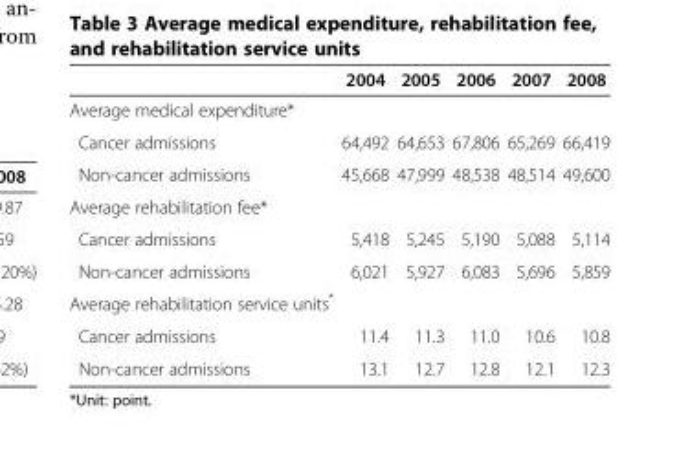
<table><thead><tr><td></td><td>2004</td><td>2005</td><td>2006</td><td>2007</td><td>2008</td></tr></thead><tbody><tr><td colspan="6">Average medical expenditure*</td></tr><tr><td>Cancer admissions</td><td>64,492</td><td>64,653</td><td>67,806</td><td>65,269</td><td>66,419</td></tr><tr><td>Non-cancer admissions</td><td>45,668</td><td>47,999</td><td>48,538</td><td>48,514</td><td>49,600</td></tr><tr><td colspan="6">Average rehabilitation fee*</td></tr><tr><td>Cancer admissions</td><td>5,418</td><td>5,245</td><td>5,190</td><td>5,088</td><td>5,114</td></tr><tr><td>Non-cancer admissions</td><td>6,021</td><td>5,927</td><td>6,083</td><td>5,696</td><td>5,859</td></tr><tr><td colspan="6">Average rehabilitation service units*</td></tr><tr><td>Cancer admissions</td><td>11.4</td><td>11.3</td><td>11.0</td><td>10.6</td><td>10.8</td></tr><tr><td>Non-cancer admissions</td><td>13.1</td><td>12.7</td><td>12.8</td><td>12.1</td><td>12.3</td></tr></tbody></table>